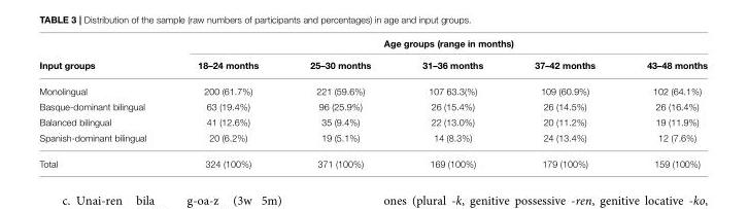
<table><thead><tr><td rowspan="2">Input groups</td><td colspan="5">Age groups (range in months)</td></tr><tr><td>18–24 months</td><td>25–30 months</td><td>31–36 months</td><td>37–42 months</td><td>43–48 months</td></tr></thead><tbody><tr><td>Monolingual</td><td>200 (61.7%)</td><td>221 (59.6%)</td><td>107 63.3(%)</td><td>109 (60.9%)</td><td>102 (64.1%)</td></tr><tr><td>Basque-dominant bilingual</td><td>63 (19.4%)</td><td>96 (25.9%)</td><td>26 (15.4%)</td><td>26 (14.5%)</td><td>26 (16.4%)</td></tr><tr><td>Balanced bilingual</td><td>41 (12.6%)</td><td>35 (9.4%)</td><td>22 (13.0%)</td><td>20 (11.2%)</td><td>19 (11.9%)</td></tr><tr><td>Spanish-dominant bilingual</td><td>20 (6.2%)</td><td>19 (5.1%)</td><td>14 (8.3%)</td><td>24 (13.4%)</td><td>12 (7.6%)</td></tr><tr><td>Total</td><td>324 (100%)</td><td>371 (100%)</td><td>169 (100%)</td><td>179 (100%)</td><td>159 (100%)</td></tr></tbody></table>